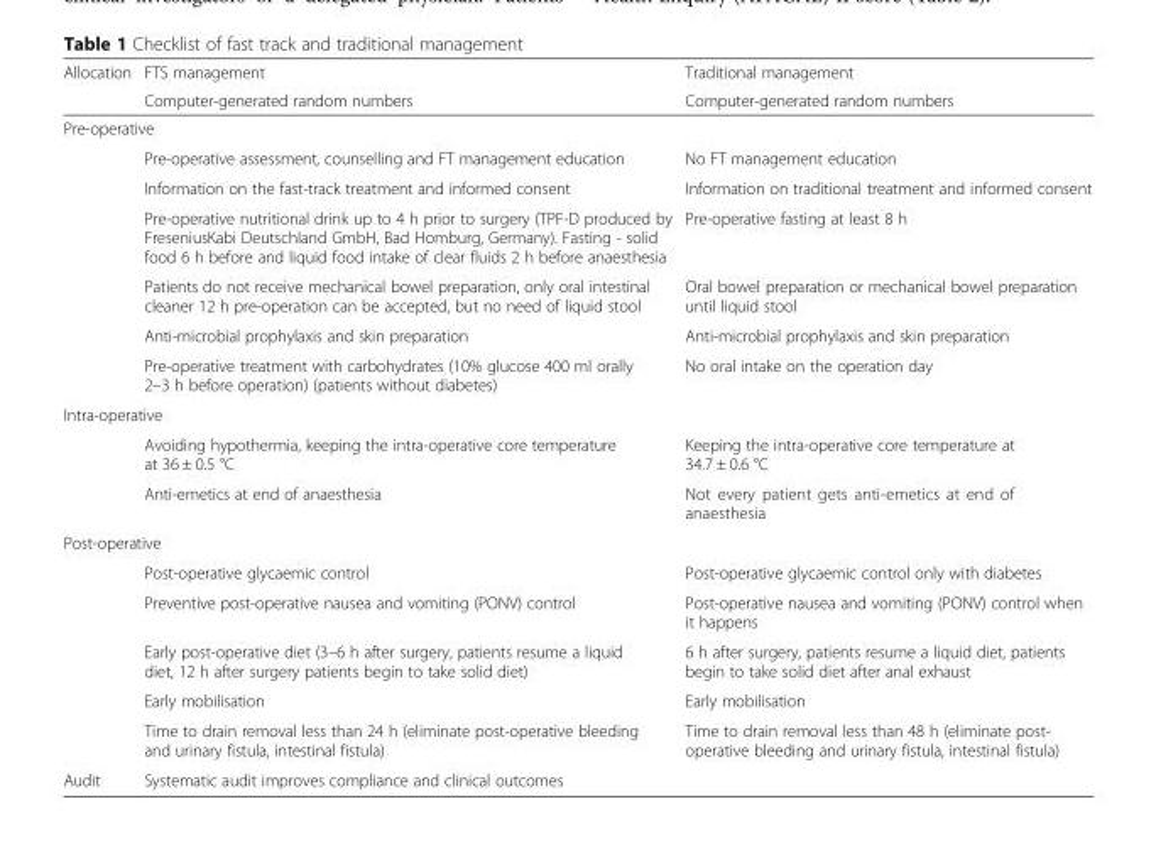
<table><thead><tr><td rowspan="2">Allocation</td><td rowspan="2">FTS management Computer-generated random numbers</td><td rowspan="2">Traditional management Computer-generated random numbers</td></tr><tr></tr></thead><tbody><tr><td colspan="3">Pre-operative</td></tr><tr><td rowspan="6"></td><td>Pre-operative assessment, counselling and FT management education</td><td>No FT management education</td></tr><tr><td>Information on the fast-track treatment and informed consent</td><td>Information on traditional treatment and informed consent</td></tr><tr><td>Pre-operative nutritional drink up to 4 h prior to surgery (TPF-D produced by FreseniusKabi Deutschland GmbH, Bad Homburg, Germany). Fasting - solid food 6 h before and liquid food intake of clear fluids 2 h before anaesthesia</td><td>Pre-operative fasting at least 8 h</td></tr><tr><td>Patients do not receive mechanical bowel preparation, only oral intestinal cleaner 12 h pre-operation can be accepted, but no need of liquid stool</td><td>Oral bowel preparation or mechanical bowel preparation until liquid stool</td></tr><tr><td>Anti-microbial prophylaxis and skin preparation</td><td>Anti-microbial prophylaxis and skin preparation</td></tr><tr><td>Pre-operative treatment with carbohydrates (10% glucose 400 ml orally 2–3 h before operation) (patients without diabetes)</td><td>No oral intake on the operation day</td></tr><tr><td colspan="3">Intra-operative</td></tr><tr><td rowspan="2"></td><td>Avoiding hypothermia, keeping the intra-operative core temperature at 36 ± 0.5 °C</td><td>Keeping the intra-operative core temperature at 34.7 ± 0.6 °C</td></tr><tr><td>Anti-emetics at end of anaesthesia</td><td>Not every patient gets anti-emetics at end of anaesthesia</td></tr><tr><td colspan="3">Post-operative</td></tr><tr><td rowspan="5"></td><td>Post-operative glycaemic control</td><td>Post-operative glycaemic control only with diabetes</td></tr><tr><td>Preventive post-operative nausea and vomiting (PONV) control</td><td>Post-operative nausea and vomiting (PONV) control when it happens</td></tr><tr><td>Early post-operative diet (3–6 h after surgery, patients resume a liquid diet, 12 h after surgery patients begin to take solid diet)</td><td>6 h after surgery, patients resume a liquid diet, patients begin to take solid diet after anal exhaust</td></tr><tr><td>Early mobilisation</td><td>Early mobilisation</td></tr><tr><td>Time to drain removal less than 24 h (eliminate post-operative bleeding and urinary fistula, intestinal fistula)</td><td>Time to drain removal less than 48 h (eliminate post- operative bleeding and urinary fistula, intestinal fistula)</td></tr><tr><td>Audit</td><td>Systematic audit improves compliance and clinical outcomes</td><td></td></tr></tbody></table>